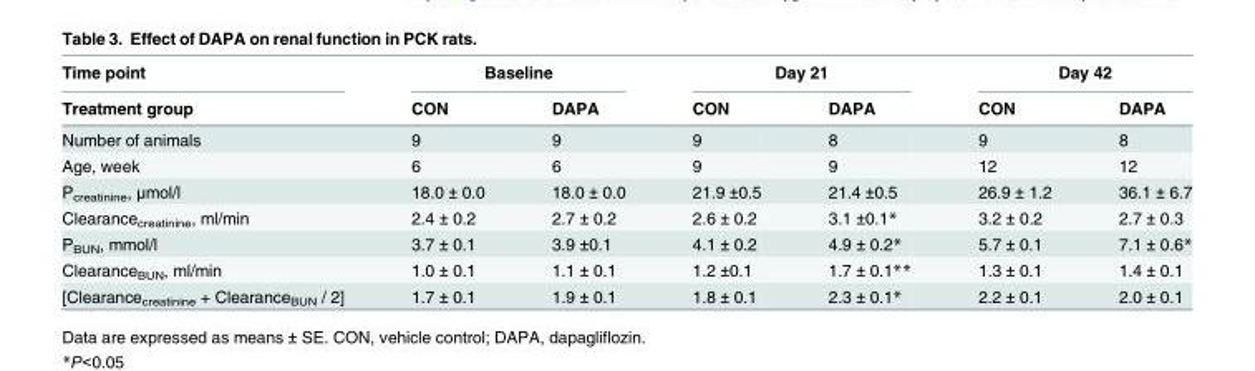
<table><thead><tr><td rowspan="2">Time point Treatment group</td><td colspan="2">Baseline</td><td colspan="2">Day 21</td><td colspan="2">Day 42</td></tr><tr><td>CON</td><td>DAPA</td><td>CON</td><td>DAPA</td><td>CON</td><td>DAPA</td></tr></thead><tbody><tr><td>Number of animals</td><td>9</td><td>9</td><td>9</td><td>8</td><td>9</td><td>8</td></tr><tr><td>Age, week</td><td>6</td><td>6</td><td>9</td><td>9</td><td>12</td><td>12</td></tr><tr><td>P<sub>creatinine</sub>, μmol/l</td><td>18.0 ± 0.0</td><td>18.0 ± 0.0</td><td>21.9 ±0.5</td><td>21.4 ±0.5</td><td>26.9 ± 1.2</td><td>36.1 ± 6.7</td></tr><tr><td>Clearance<sub>creatinine</sub>, ml/min</td><td>2.4 ± 0.2</td><td>2.7 ± 0.2</td><td>2.6 ± 0.2</td><td>3.1 ±0.1*</td><td>3.2 ± 0.2</td><td>2.7 ± 0.3</td></tr><tr><td>P<sub>BUN</sub>, mmol/l</td><td>3.7 ± 0.1</td><td>3.9 ±0.1</td><td>4.1 ± 0.2</td><td>4.9 ± 0.2*</td><td>5.7 ± 0.1</td><td>7.1 ± 0.6*</td></tr><tr><td>Clearance<sub>BUN</sub>, ml/min</td><td>1.0 ± 0.1</td><td>1.1 ± 0.1</td><td>1.2 ±0.1</td><td>1.7 ± 0.1**</td><td>1.3 ± 0.1</td><td>1.4 ± 0.1</td></tr><tr><td>[Clearance<sub>creatinine</sub> + Clearance<sub>BUN</sub> / 2]</td><td>1.7 ± 0.1</td><td>1.9 ± 0.1</td><td>1.8 ± 0.1</td><td>2.3 ± 0.1*</td><td>2.2 ± 0.1</td><td>2.0 ± 0.1</td></tr></tbody></table>